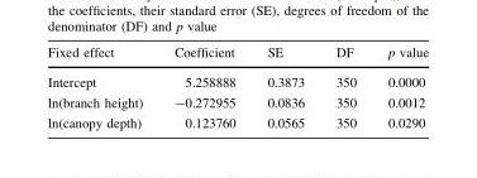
<table><thead><tr><td>Fixed effect</td><td>Coefficient</td><td>SE</td><td>DF</td><td>p value</td></tr></thead><tbody><tr><td>Intercept</td><td>5.258888</td><td>0.3873</td><td>350</td><td>0.0000</td></tr><tr><td>ln(branch height)</td><td>-0.272955</td><td>0.0836</td><td>350</td><td>0.0012</td></tr><tr><td>ln(canopy depth)</td><td>0.123760</td><td>0.0565</td><td>350</td><td>0.0290</td></tr></tbody></table>